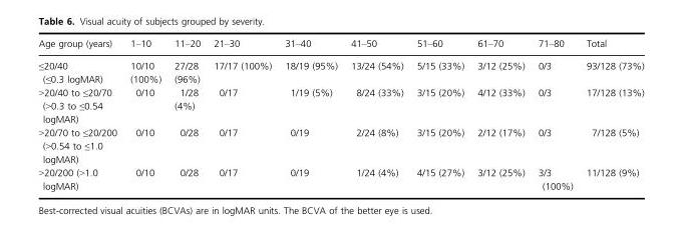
<table><thead><tr><td>Age group (years)</td><td>1–10</td><td>11–20</td><td>21–30</td><td>31–40</td><td>41–50</td><td>51–60</td><td>61–70</td><td>71–80</td><td>Total</td></tr></thead><tbody><tr><td>≤20/40 (≤0.3 logMAR)</td><td>10/10 (100%)</td><td>27/28 (96%)</td><td>17/17 (100%)</td><td>18/19 (95%)</td><td>13/24 (54%)</td><td>5/15 (33%)</td><td>3/12 (25%)</td><td>0/3</td><td>93/128 (73%)</td></tr><tr><td>&gt;20/40 to ≤20/70 (&gt;0.3 to ≤0.54 logMAR)</td><td>0/10</td><td>1/28 (4%)</td><td>0/17</td><td>1/19 (5%)</td><td>8/24 (33%)</td><td>3/15 (20%)</td><td>4/12 (33%)</td><td>0/3</td><td>17/128 (13%)</td></tr><tr><td>&gt;20/70 to ≤20/200 (&gt;0.54 to ≤1.0 logMAR)</td><td>0/10</td><td>0/28</td><td>0/17</td><td>0/19</td><td>2/24 (8%)</td><td>3/15 (20%)</td><td>2/12 (17%)</td><td>0/3</td><td>7/128 (5%)</td></tr><tr><td>&gt;20/200 (&gt;1.0 logMAR)</td><td>0/10</td><td>0/28</td><td>0/17</td><td>0/19</td><td>1/24 (4%)</td><td>4/15 (27%)</td><td>3/12 (25%)</td><td>3/3 (100%)</td><td>11/128 (9%)</td></tr></tbody></table>